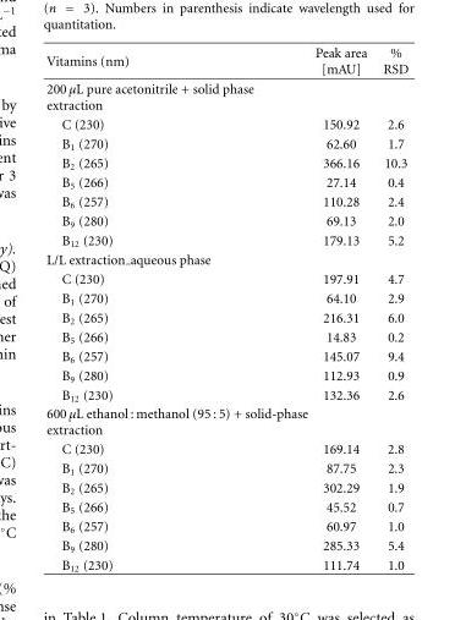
<table><thead><tr><td>Vitamins (nm)</td><td>Peak area [mAU]</td><td>% RSD</td></tr></thead><tbody><tr><td colspan="3">200 μL pure acetonitrile + solid phase extraction</td></tr><tr><td>C (230)</td><td>150.92</td><td>2.6</td></tr><tr><td>B<sub>1</sub> (270)</td><td>62.60</td><td>1.7</td></tr><tr><td>B<sub>2</sub> (265)</td><td>366.16</td><td>10.3</td></tr><tr><td>B<sub>5</sub> (266)</td><td>27.14</td><td>0.4</td></tr><tr><td>B<sub>6</sub> (257)</td><td>110.28</td><td>2.4</td></tr><tr><td>B<sub>9</sub> (280)</td><td>69.13</td><td>2.0</td></tr><tr><td>B<sub>12</sub> (230)</td><td>179.13</td><td>5.2</td></tr><tr><td colspan="3">L/L extraction aqueous phase</td></tr><tr><td>C (230)</td><td>197.91</td><td>4.7</td></tr><tr><td>B<sub>1</sub> (270)</td><td>64.10</td><td>2.9</td></tr><tr><td>B<sub>2</sub> (265)</td><td>216.31</td><td>6.0</td></tr><tr><td>B<sub>5</sub> (266)</td><td>14.83</td><td>0.2</td></tr><tr><td>B<sub>6</sub> (257)</td><td>145.07</td><td>9.4</td></tr><tr><td>B<sub>9</sub> (280)</td><td>112.93</td><td>0.9</td></tr><tr><td>B<sub>12</sub> (230)</td><td>132.36</td><td>2.6</td></tr><tr><td colspan="3">600 μL ethanol : methanol (95 : 5) + solid-phase extraction</td></tr><tr><td>C (230)</td><td>169.14</td><td>2.8</td></tr><tr><td>B<sub>1</sub> (270)</td><td>87.75</td><td>2.3</td></tr><tr><td>B<sub>2</sub> (265)</td><td>302.29</td><td>1.9</td></tr><tr><td>B<sub>5</sub> (266)</td><td>45.52</td><td>0.7</td></tr><tr><td>B<sub>6</sub> (257)</td><td>60.97</td><td>1.0</td></tr><tr><td>B<sub>9</sub> (280)</td><td>285.33</td><td>5.4</td></tr><tr><td>B<sub>12</sub> (230)</td><td>111.74</td><td>1.0</td></tr></tbody></table>